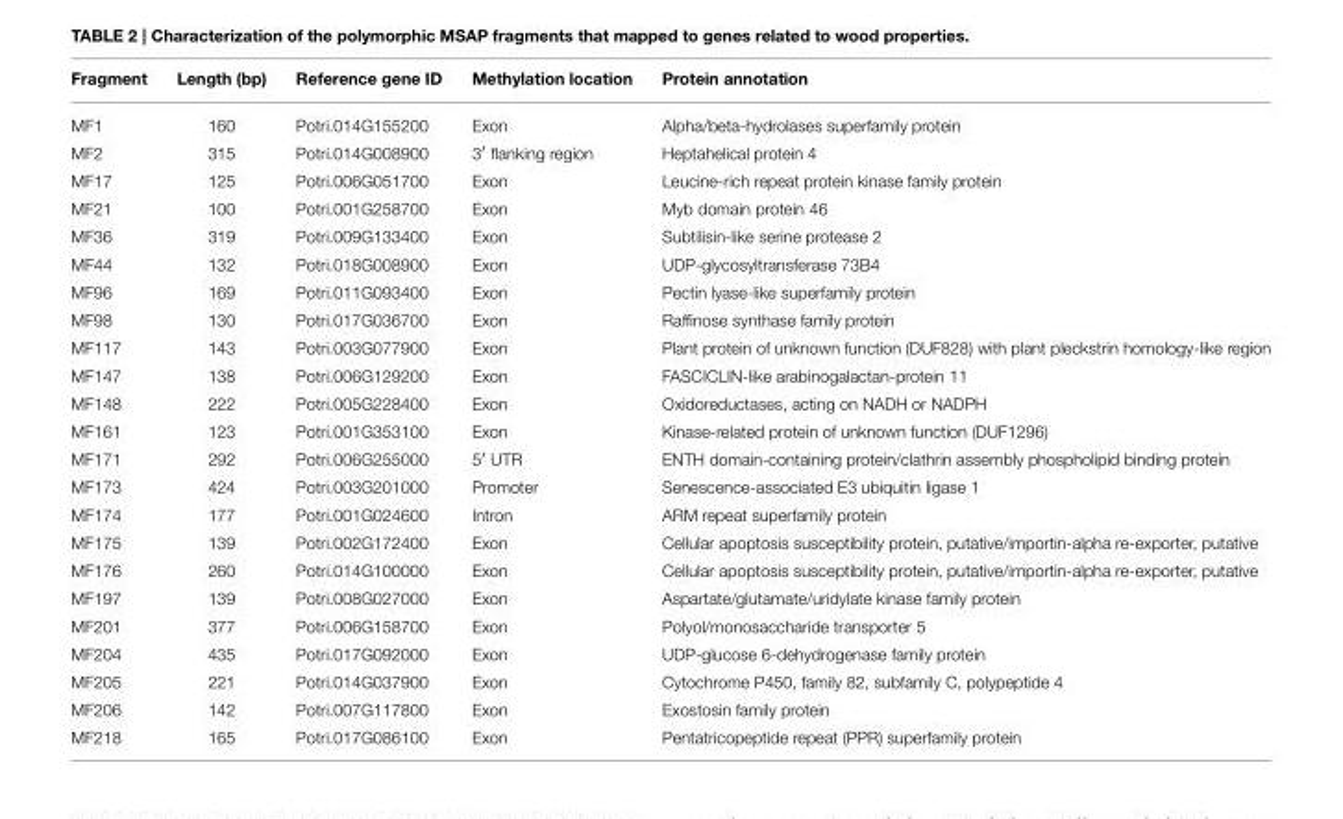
<table><thead><tr><td>Fragment</td><td>Length (bp)</td><td>Reference gene ID</td><td>Methylation location</td><td>Protein annotation</td></tr></thead><tbody><tr><td>MF1</td><td>160</td><td>Potri.014G155200</td><td>Exon</td><td>Alpha/beta-hydrolases superfamily protein</td></tr><tr><td>MF2</td><td>315</td><td>Potri.014G008900</td><td>3′ flanking region</td><td>Heptahelical protein 4</td></tr><tr><td>MF17</td><td>125</td><td>Potri.006G051700</td><td>Exon</td><td>Leucine-rich repeat protein kinase family protein</td></tr><tr><td>MF21</td><td>100</td><td>Potri.001G258700</td><td>Exon</td><td>Myb domain protein 46</td></tr><tr><td>MF36</td><td>319</td><td>Potri.009G133400</td><td>Exon</td><td>Subtilisin-like serine protease 2</td></tr><tr><td>MF44</td><td>132</td><td>Potri.018G008900</td><td>Exon</td><td>UDP-glycosyltransferase 73B4</td></tr><tr><td>MF96</td><td>169</td><td>Potri.011G093400</td><td>Exon</td><td>Pectin lyase-like superfamily protein</td></tr><tr><td>MF98</td><td>130</td><td>Potri.017G036700</td><td>Exon</td><td>Raffinose synthase family protein</td></tr><tr><td>MF117</td><td>143</td><td>Potri.003G077900</td><td>Exon</td><td>Plant protein of unknown function (DUF828) with plant pleckstrin homology-like region</td></tr><tr><td>MF147</td><td>138</td><td>Potri.006G129200</td><td>Exon</td><td>FASCICLIN-like arabinogalactan-protein 11</td></tr><tr><td>MF148</td><td>222</td><td>Potri.005G228400</td><td>Exon</td><td>Oxidoreductases, acting on NADH or NADPH</td></tr><tr><td>MF161</td><td>123</td><td>Potri.001G353100</td><td>Exon</td><td>Kinase-related protein of unknown function (DUF1296)</td></tr><tr><td>MF171</td><td>292</td><td>Potri.006G255000</td><td>5′ UTR</td><td>ENTH domain-containing protein/clathrin assembly phospholipid binding protein</td></tr><tr><td>MF173</td><td>424</td><td>Potri.003G201000</td><td>Promoter</td><td>Senescence-associated E3 ubiquitin ligase 1</td></tr><tr><td>MF174</td><td>177</td><td>Potri.001G024600</td><td>Intron</td><td>ARM repeat superfamily protein</td></tr><tr><td>MF175</td><td>139</td><td>Potri.002G172400</td><td>Exon</td><td>Cellular apoptosis susceptibility protein, putative/importin-alpha re-exporter, putative</td></tr><tr><td>MF176</td><td>260</td><td>Potri.014G100000</td><td>Exon</td><td>Cellular apoptosis susceptibility protein, putative/importin-alpha re-exporter, putative</td></tr><tr><td>MF197</td><td>139</td><td>Potri.008G027000</td><td>Exon</td><td>Aspartate/glutamate/uridylate kinase family protein</td></tr><tr><td>MF201</td><td>377</td><td>Potri.006G158700</td><td>Exon</td><td>Polyol/monosaccharide transporter 5</td></tr><tr><td>MF204</td><td>435</td><td>Potri.017G092000</td><td>Exon</td><td>UDP-glucose 6-dehydrogenase family protein</td></tr><tr><td>MF205</td><td>221</td><td>Potri.014G037900</td><td>Exon</td><td>Cytochrome P450, family 82, subfamily C, polypeptide 4</td></tr><tr><td>MF206</td><td>142</td><td>Potri.007G117800</td><td>Exon</td><td>Exostosin family protein</td></tr><tr><td>MF218</td><td>165</td><td>Potri.017G086100</td><td>Exon</td><td>Pentatricopeptide repeat (PPR) superfamily protein</td></tr></tbody></table>